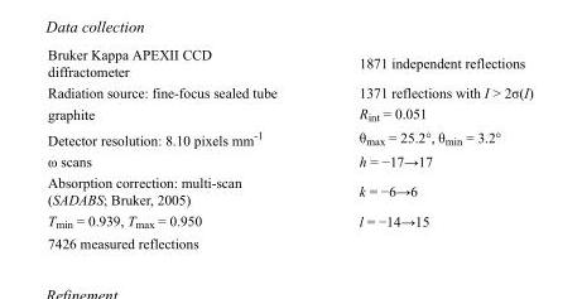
<table><tbody><tr><td>Bruker Kappa APEXII CCD diffractometer</td><td>1871 independent reflections</td></tr><tr><td>Radiation source: fine-focus sealed tube</td><td>1371 reflections with I &gt; 2σ(I)</td></tr><tr><td>graphite</td><td>R<sub>int</sub> = 0.051</td></tr><tr><td>Detector resolution: 8.10 pixels mm<sup>-1</sup></td><td>θ<sub>max</sub> = 25.2°, θ<sub>min</sub> = 3.2°</td></tr><tr><td>ω scans</td><td>h = −17→17</td></tr><tr><td>Absorption correction: multi-scan (SADABS; Bruker, 2005)</td><td>k = −6→6</td></tr><tr><td>T<sub>min</sub> = 0.939, T<sub>max</sub> = 0.950</td><td>l = −14→15</td></tr><tr><td>7426 measured reflections</td><td></td></tr></tbody></table>